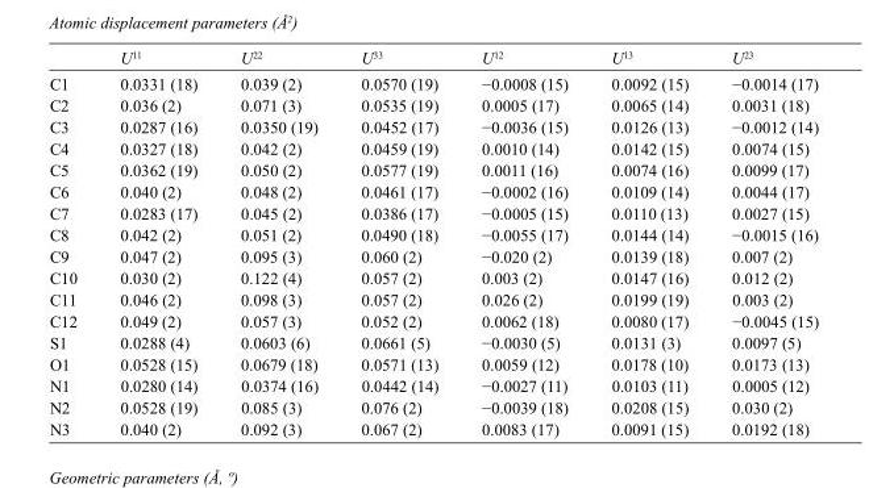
<table><thead><tr><td></td><td>U<sup>11</sup></td><td>U<sup>22</sup></td><td>U<sup>33</sup></td><td>U<sup>12</sup></td><td>U<sup>13</sup></td><td>U<sup>23</sup></td></tr></thead><tbody><tr><td>C1</td><td>0.0331 (18)</td><td>0.039 (2)</td><td>0.0570 (19)</td><td>−0.0008 (15)</td><td>0.0092 (15)</td><td>−0.0014 (17)</td></tr><tr><td>C2</td><td>0.036 (2)</td><td>0.071 (3)</td><td>0.0535 (19)</td><td>0.0005 (17)</td><td>0.0065 (14)</td><td>0.0031 (18)</td></tr><tr><td>C3</td><td>0.0287 (16)</td><td>0.0350 (19)</td><td>0.0452 (17)</td><td>−0.0036 (15)</td><td>0.0126 (13)</td><td>−0.0012 (14)</td></tr><tr><td>C4</td><td>0.0327 (18)</td><td>0.042 (2)</td><td>0.0459 (19)</td><td>0.0010 (14)</td><td>0.0142 (15)</td><td>0.0074 (15)</td></tr><tr><td>C5</td><td>0.0362 (19)</td><td>0.050 (2)</td><td>0.0577 (19)</td><td>0.0011 (16)</td><td>0.0074 (16)</td><td>0.0099 (17)</td></tr><tr><td>C6</td><td>0.040 (2)</td><td>0.048 (2)</td><td>0.0461 (17)</td><td>−0.0002 (16)</td><td>0.0109 (14)</td><td>0.0044 (17)</td></tr><tr><td>C7</td><td>0.0283 (17)</td><td>0.045 (2)</td><td>0.0386 (17)</td><td>−0.0005 (15)</td><td>0.0110 (13)</td><td>0.0027 (15)</td></tr><tr><td>C8</td><td>0.042 (2)</td><td>0.051 (2)</td><td>0.0490 (18)</td><td>−0.0055 (17)</td><td>0.0144 (14)</td><td>−0.0015 (16)</td></tr><tr><td>C9</td><td>0.047 (2)</td><td>0.095 (3)</td><td>0.060 (2)</td><td>−0.020 (2)</td><td>0.0139 (18)</td><td>0.007 (2)</td></tr><tr><td>C10</td><td>0.030 (2)</td><td>0.122 (4)</td><td>0.057 (2)</td><td>0.003 (2)</td><td>0.0147 (16)</td><td>0.012 (2)</td></tr><tr><td>C11</td><td>0.046 (2)</td><td>0.098 (3)</td><td>0.057 (2)</td><td>0.026 (2)</td><td>0.0199 (19)</td><td>0.003 (2)</td></tr><tr><td>C12</td><td>0.049 (2)</td><td>0.057 (3)</td><td>0.052 (2)</td><td>0.0062 (18)</td><td>0.0080 (17)</td><td>−0.0045 (15)</td></tr><tr><td>S1</td><td>0.0288 (4)</td><td>0.0603 (6)</td><td>0.0661 (5)</td><td>−0.0030 (5)</td><td>0.0131 (3)</td><td>0.0097 (5)</td></tr><tr><td>O1</td><td>0.0528 (15)</td><td>0.0679 (18)</td><td>0.0571 (13)</td><td>0.0059 (12)</td><td>0.0178 (10)</td><td>0.0173 (13)</td></tr><tr><td>N1</td><td>0.0280 (14)</td><td>0.0374 (16)</td><td>0.0442 (14)</td><td>−0.0027 (11)</td><td>0.0103 (11)</td><td>0.0005 (12)</td></tr><tr><td>N2</td><td>0.0528 (19)</td><td>0.085 (3)</td><td>0.076 (2)</td><td>−0.0039 (18)</td><td>0.0208 (15)</td><td>0.030 (2)</td></tr><tr><td>N3</td><td>0.040 (2)</td><td>0.092 (3)</td><td>0.067 (2)</td><td>0.0083 (17)</td><td>0.0091 (15)</td><td>0.0192 (18)</td></tr></tbody></table>